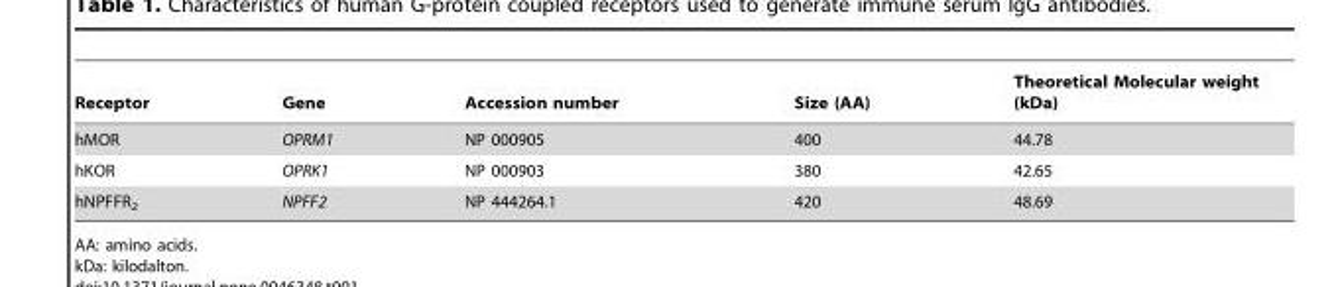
<table><thead><tr><td>Receptor</td><td>Gene</td><td>Accession number</td><td>Size (AA)</td><td>Theoretical Molecular weight (kDa)</td></tr></thead><tbody><tr><td>hMOR</td><td>OPRM1</td><td>NP 000905</td><td>400</td><td>44.78</td></tr><tr><td>hKOR</td><td>OPRK1</td><td>NP 000903</td><td>380</td><td>42.65</td></tr><tr><td>hNPFFR<sub>2</sub></td><td>NPFF2</td><td>NP 444264.1</td><td>420</td><td>48.69</td></tr></tbody></table>